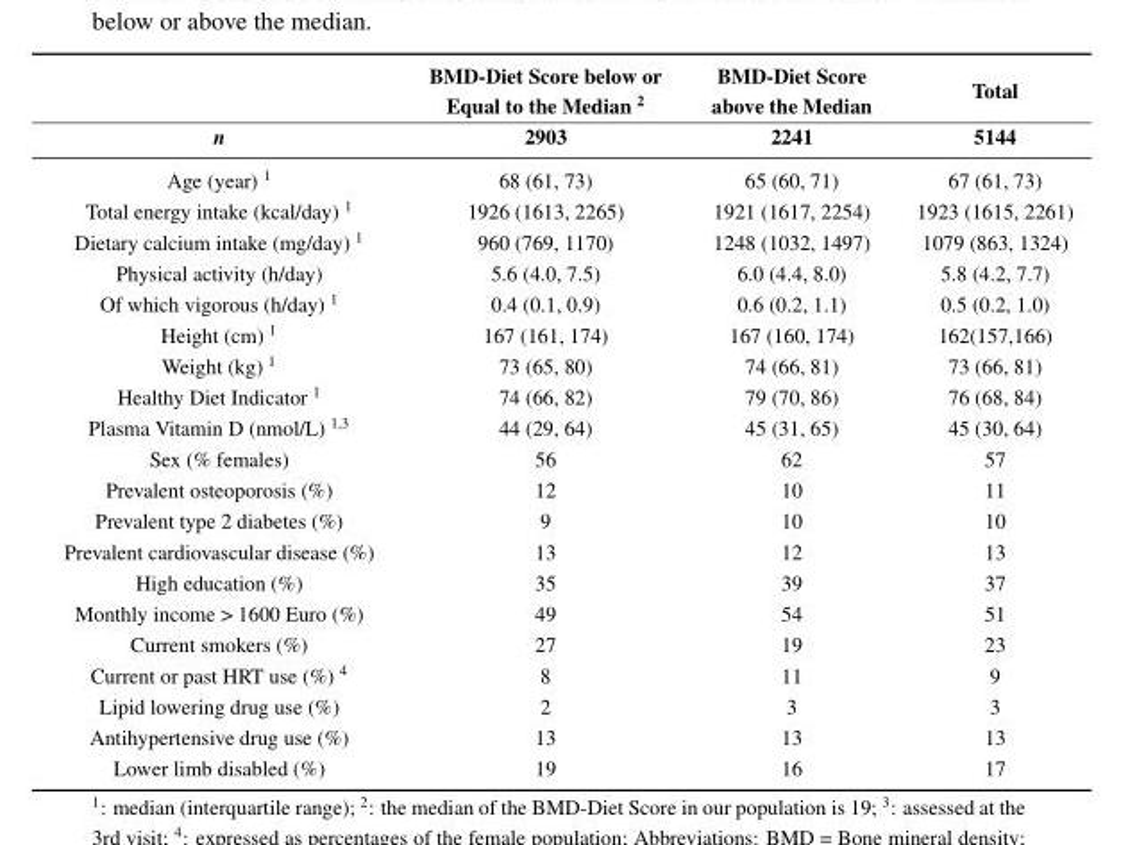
<table><thead><tr><td rowspan="2">n</td><td rowspan="2">BMD-Diet Score below or Equal to the Median <sup>2</sup> 2903</td><td rowspan="2">BMD-Diet Score above the Median 2241</td><td rowspan="2">Total 5144</td></tr><tr></tr></thead><tbody><tr><td>Age (year) <sup>1</sup></td><td>68 (61, 73)</td><td>65 (60, 71)</td><td>67 (61, 73)</td></tr><tr><td>Total energy intake (kcal/day) <sup>1</sup></td><td>1926 (1613, 2265)</td><td>1921 (1617, 2254)</td><td>1923 (1615, 2261)</td></tr><tr><td>Dietary calcium intake (mg/day) <sup>1</sup></td><td>960 (769, 1170)</td><td>1248 (1032, 1497)</td><td>1079 (863, 1324)</td></tr><tr><td>Physical activity (h/day)</td><td>5.6 (4.0, 7.5)</td><td>6.0 (4.4, 8.0)</td><td>5.8 (4.2, 7.7)</td></tr><tr><td>Of which vigorous (h/day) <sup>1</sup></td><td>0.4 (0.1, 0.9)</td><td>0.6 (0.2, 1.1)</td><td>0.5 (0.2, 1.0)</td></tr><tr><td>Height (cm) <sup>1</sup></td><td>167 (161, 174)</td><td>167 (160, 174)</td><td>162(157,166)</td></tr><tr><td>Weight (kg) <sup>1</sup></td><td>73 (65, 80)</td><td>74 (66, 81)</td><td>73 (66, 81)</td></tr><tr><td>Healthy Diet Indicator <sup>1</sup></td><td>74 (66, 82)</td><td>79 (70, 86)</td><td>76 (68, 84)</td></tr><tr><td>Plasma Vitamin D (nmol/L) <sup>1,3</sup></td><td>44 (29, 64)</td><td>45 (31, 65)</td><td>45 (30, 64)</td></tr><tr><td>Sex (% females)</td><td>56</td><td>62</td><td>57</td></tr><tr><td>Prevalent osteoporosis (%)</td><td>12</td><td>10</td><td>11</td></tr><tr><td>Prevalent type 2 diabetes (%)</td><td>9</td><td>10</td><td>10</td></tr><tr><td>Prevalent cardiovascular disease (%)</td><td>13</td><td>12</td><td>13</td></tr><tr><td>High education (%)</td><td>35</td><td>39</td><td>37</td></tr><tr><td>Monthly income &gt; 1600 Euro (%)</td><td>49</td><td>54</td><td>51</td></tr><tr><td>Current smokers (%)</td><td>27</td><td>19</td><td>23</td></tr><tr><td>Current or past HRT use (%) <sup>4</sup></td><td>8</td><td>11</td><td>9</td></tr><tr><td>Lipid lowering drug use (%)</td><td>2</td><td>3</td><td>3</td></tr><tr><td>Antihypertensive drug use (%)</td><td>13</td><td>13</td><td>13</td></tr><tr><td>Lower limb disabled (%)</td><td>19</td><td>16</td><td>17</td></tr></tbody></table>